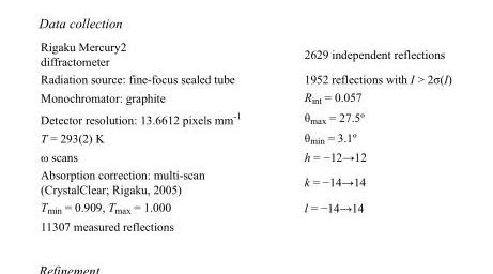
<table><tbody><tr><td>Rigaku Mercury2 diffractometer</td><td>2629 independent reflections</td></tr><tr><td>Radiation source: fine-focus sealed tube</td><td>1952 reflections with I &gt; 2σ(I)</td></tr><tr><td>Monochromator: graphite</td><td>R<sub>int</sub> = 0.057</td></tr><tr><td>Detector resolution: 13.6612 pixels mm<sup>-1</sup></td><td>θ<sub>max</sub> = 27.5º</td></tr><tr><td>T = 293(2) K</td><td>θ<sub>min</sub> = 3.1º</td></tr><tr><td>ω scans</td><td>h = −12→12</td></tr><tr><td>Absorption correction: multi-scan (CrystalClear; Rigaku, 2005)</td><td>k = −14→14</td></tr><tr><td>T<sub>min</sub> = 0.909, T<sub>max</sub> = 1.000</td><td>l = −14→14</td></tr><tr><td>11307 measured reflections</td><td></td></tr></tbody></table>